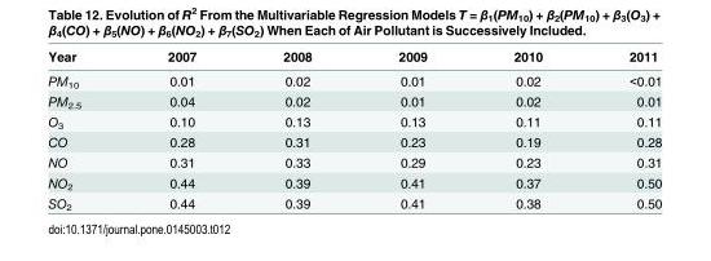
<table><thead><tr><td>Year</td><td>2007</td><td>2008</td><td>2009</td><td>2010</td><td>2011</td></tr></thead><tbody><tr><td>PM<sub>10</sub></td><td>0.01</td><td>0.02</td><td>0.01</td><td>0.02</td><td>&lt;0.01</td></tr><tr><td>PM<sub>2.5</sub></td><td>0.04</td><td>0.02</td><td>0.01</td><td>0.02</td><td>0.01</td></tr><tr><td>O<sub>3</sub></td><td>0.10</td><td>0.13</td><td>0.13</td><td>0.11</td><td>0.11</td></tr><tr><td>CO</td><td>0.28</td><td>0.31</td><td>0.23</td><td>0.19</td><td>0.28</td></tr><tr><td>NO</td><td>0.31</td><td>0.33</td><td>0.29</td><td>0.23</td><td>0.31</td></tr><tr><td>NO<sub>2</sub></td><td>0.44</td><td>0.39</td><td>0.41</td><td>0.37</td><td>0.50</td></tr><tr><td>SO<sub>2</sub></td><td>0.44</td><td>0.39</td><td>0.41</td><td>0.38</td><td>0.50</td></tr></tbody></table>